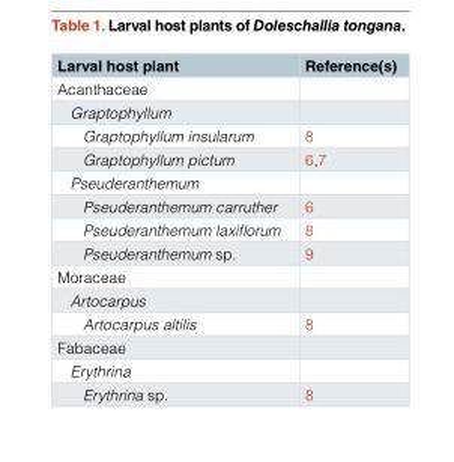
<table><thead><tr><td>Larval host plant</td><td>Reference(s)</td></tr></thead><tbody><tr><td colspan="2">Acanthaceae</td></tr><tr><td colspan="2">Graptophyllum</td></tr><tr><td>Graptophyllum insularum</td><td>8</td></tr><tr><td>Graptophyllum pictum</td><td>6,7</td></tr><tr><td colspan="2">Pseuderanthemum</td></tr><tr><td>Pseuderanthemum carruther</td><td>6</td></tr><tr><td>Pseuderanthemum laxiflorum</td><td>8</td></tr><tr><td>Pseuderanthemum sp.</td><td>9</td></tr><tr><td colspan="2">Moraceae</td></tr><tr><td colspan="2">Artocarpus</td></tr><tr><td>Artocarpus altilis</td><td>8</td></tr><tr><td colspan="2">Fabaceae</td></tr><tr><td colspan="2">Erythrina</td></tr><tr><td>Erythrina sp.</td><td>8</td></tr></tbody></table>